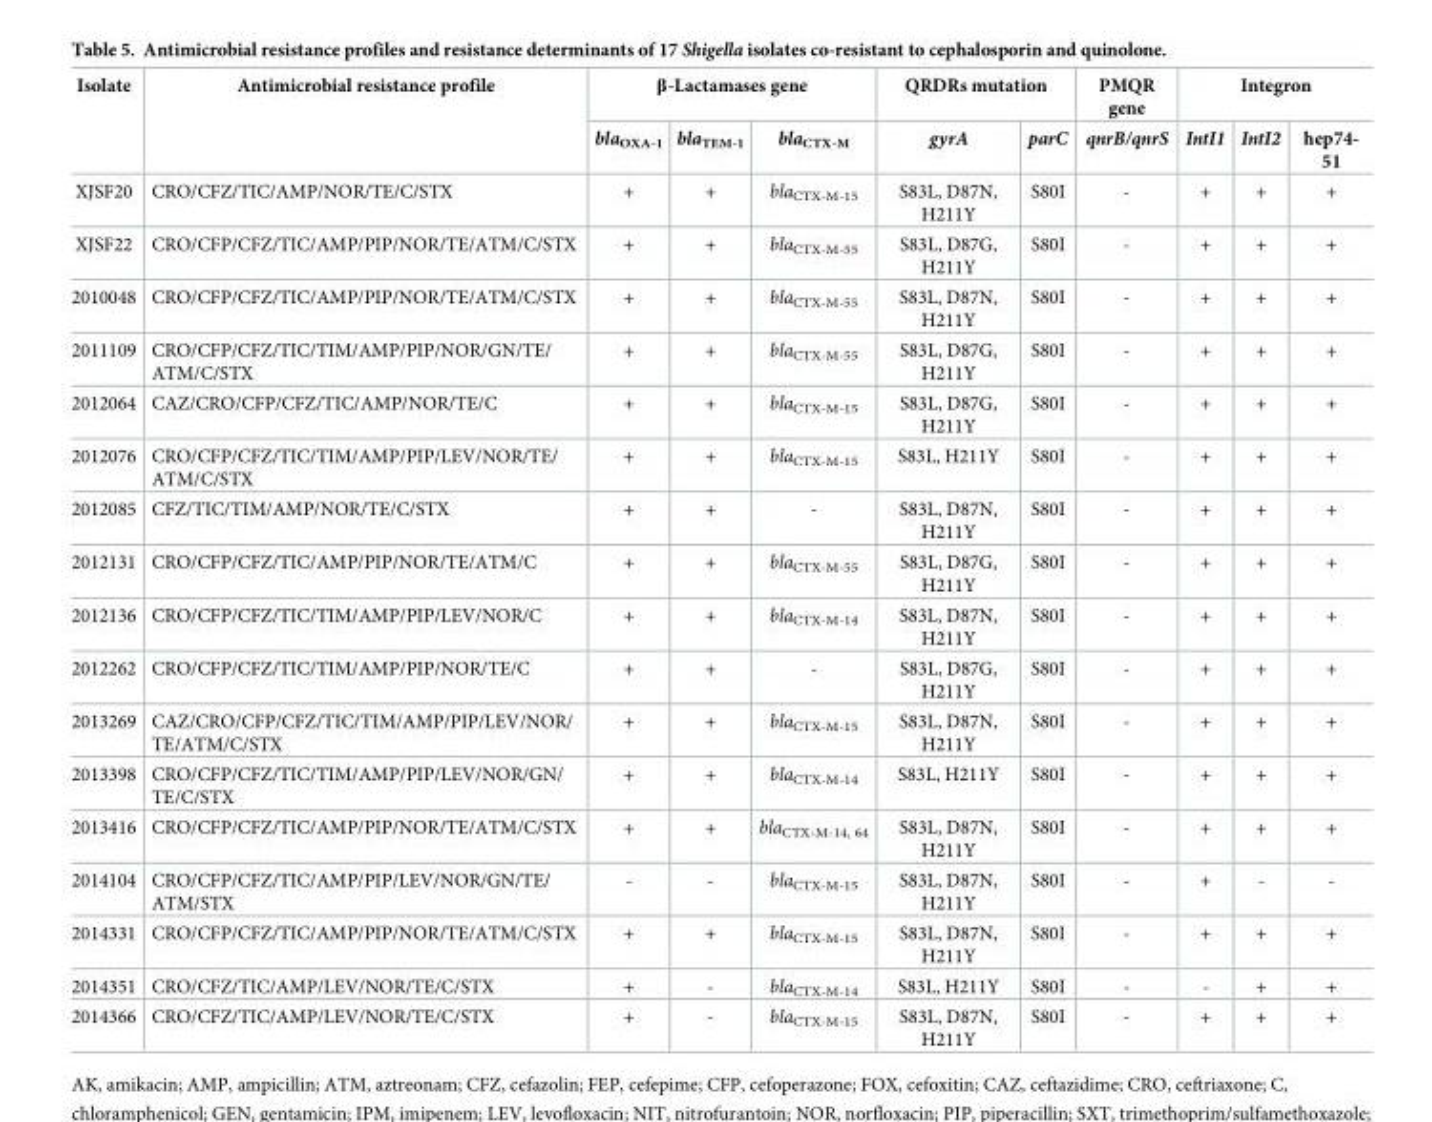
<table><thead><tr><td rowspan="2">Isolate</td><td rowspan="2">Antimicrobial resistance profile</td><td colspan="3">β-Lactamases gene</td><td colspan="2">QRDRs mutation</td><td rowspan="2">PMQR gene qnrB/qnrS</td><td colspan="3">Integron</td></tr><tr><td>bla<sub>OXA-1</sub></td><td>bla<sub>TEM-1</sub></td><td>bla<sub>CTX-M</sub></td><td>gyrA</td><td>parC</td><td>IntI1</td><td>IntI2</td><td>hep74- 51</td></tr></thead><tbody><tr><td>XJSF20</td><td>CRO/CFZ/TIC/AMP/NOR/TE/C/STX</td><td>+</td><td>+</td><td>bla<sub>CTX-M-15</sub></td><td>S83L, D87N, H211Y</td><td>S80I</td><td>-</td><td>+</td><td>+</td><td>+</td></tr><tr><td>XJSF22</td><td>CRO/CFP/CFZ/TIC/AMP/PIP/NOR/TE/ATM/C/STX</td><td>+</td><td>+</td><td>bla<sub>CTX-M-55</sub></td><td>S83L, D87G, H211Y</td><td>S80I</td><td>-</td><td>+</td><td>+</td><td>+</td></tr><tr><td>2010048</td><td>CRO/CFP/CFZ/TIC/AMP/PIP/NOR/TE/ATM/C/STX</td><td>+</td><td>+</td><td>bla<sub>CTX-M-55</sub></td><td>S83L, D87N, H211Y</td><td>S80I</td><td>-</td><td>+</td><td>+</td><td>+</td></tr><tr><td>2011109</td><td>CRO/CFP/CFZ/TIC/TIM/AMP/PIP/NOR/GN/TE/ ATM/C/STX</td><td>+</td><td>+</td><td>bla<sub>CTX-M-55</sub></td><td>S83L, D87G, H211Y</td><td>S80I</td><td>-</td><td>+</td><td>+</td><td>+</td></tr><tr><td>2012064</td><td>CAZ/CRO/CFP/CFZ/TIC/AMP/NOR/TE/C</td><td>+</td><td>+</td><td>bla<sub>CTX-M-15</sub></td><td>S83L, D87G, H211Y</td><td>S80I</td><td>-</td><td>+</td><td>+</td><td>+</td></tr><tr><td>2012076</td><td>CRO/CFP/CFZ/TIC/TIM/AMP/PIP/LEV/NOR/TE/ ATM/C/STX</td><td>+</td><td>+</td><td>bla<sub>CTX-M-15</sub></td><td>S83L, H211Y</td><td>S80I</td><td>-</td><td>+</td><td>+</td><td>+</td></tr><tr><td>2012085</td><td>CFZ/TIC/TIM/AMP/NOR/TE/C/STX</td><td>+</td><td>+</td><td>-</td><td>S83L, D87N, H211Y</td><td>S80I</td><td>-</td><td>+</td><td>+</td><td>+</td></tr><tr><td>2012131</td><td>CRO/CFP/CFZ/TIC/AMP/PIP/NOR/TE/ATM/C</td><td>+</td><td>+</td><td>bla<sub>CTX-M-55</sub></td><td>S83L, D87G, H211Y</td><td>S80I</td><td>-</td><td>+</td><td>+</td><td>+</td></tr><tr><td>2012136</td><td>CRO/CFP/CFZ/TIC/TIM/AMP/PIP/LEV/NOR/C</td><td>+</td><td>+</td><td>bla<sub>CTX-M-14</sub></td><td>S83L, D87N, H211Y</td><td>S80I</td><td>-</td><td>+</td><td>+</td><td>+</td></tr><tr><td>2012262</td><td>CRO/CFP/CFZ/TIC/TIM/AMP/PIP/NOR/TE/C</td><td>+</td><td>+</td><td>-</td><td>S83L, D87G, H211Y</td><td>S80I</td><td>-</td><td>+</td><td>+</td><td>+</td></tr><tr><td>2013269</td><td>CAZ/CRO/CFP/CFZ/TIC/TIM/AMP/PIP/LEV/NOR/ TE/ATM/C/STX</td><td>+</td><td>+</td><td>bla<sub>CTX-M-15</sub></td><td>S83L, D87N, H211Y</td><td>S80I</td><td>-</td><td>+</td><td>+</td><td>+</td></tr><tr><td>2013398</td><td>CRO/CFP/CFZ/TIC/TIM/AMP/PIP/LEV/NOR/GN/ TE/C/STX</td><td>+</td><td>+</td><td>bla<sub>CTX-M-14</sub></td><td>S83L, H211Y</td><td>S80I</td><td>-</td><td>+</td><td>+</td><td>+</td></tr><tr><td>2013416</td><td>CRO/CFP/CFZ/TIC/AMP/PIP/NOR/TE/ATM/C/STX</td><td>+</td><td>+</td><td>bla<sub>CTX-M-14, 64</sub></td><td>S83L, D87N, H211Y</td><td>S80I</td><td>-</td><td>+</td><td>+</td><td>+</td></tr><tr><td>2014104</td><td>CRO/CFP/CFZ/TIC/AMP/PIP/LEV/NOR/GN/TE/ ATM/STX</td><td>-</td><td>-</td><td>bla<sub>CTX-M-15</sub></td><td>S83L, D87N, H211Y</td><td>S80I</td><td>-</td><td>+</td><td>-</td><td>-</td></tr><tr><td>2014331</td><td>CRO/CFP/CFZ/TIC/AMP/PIP/NOR/TE/ATM/C/STX</td><td>+</td><td>+</td><td>bla<sub>CTX-M-15</sub></td><td>S83L, D87N, H211Y</td><td>S80I</td><td>-</td><td>+</td><td>+</td><td>+</td></tr><tr><td>2014351</td><td>CRO/CFZ/TIC/AMP/LEV/NOR/TE/C/STX</td><td>+</td><td>-</td><td>bla<sub>CTX-M-14</sub></td><td>S83L, H211Y</td><td>S80I</td><td>-</td><td>-</td><td>+</td><td>+</td></tr><tr><td>2014366</td><td>CRO/CFZ/TIC/AMP/LEV/NOR/TE/C/STX</td><td>+</td><td>-</td><td>bla<sub>CTX-M-15</sub></td><td>S83L, D87N, H211Y</td><td>S80I</td><td>-</td><td>+</td><td>+</td><td>+</td></tr></tbody></table>